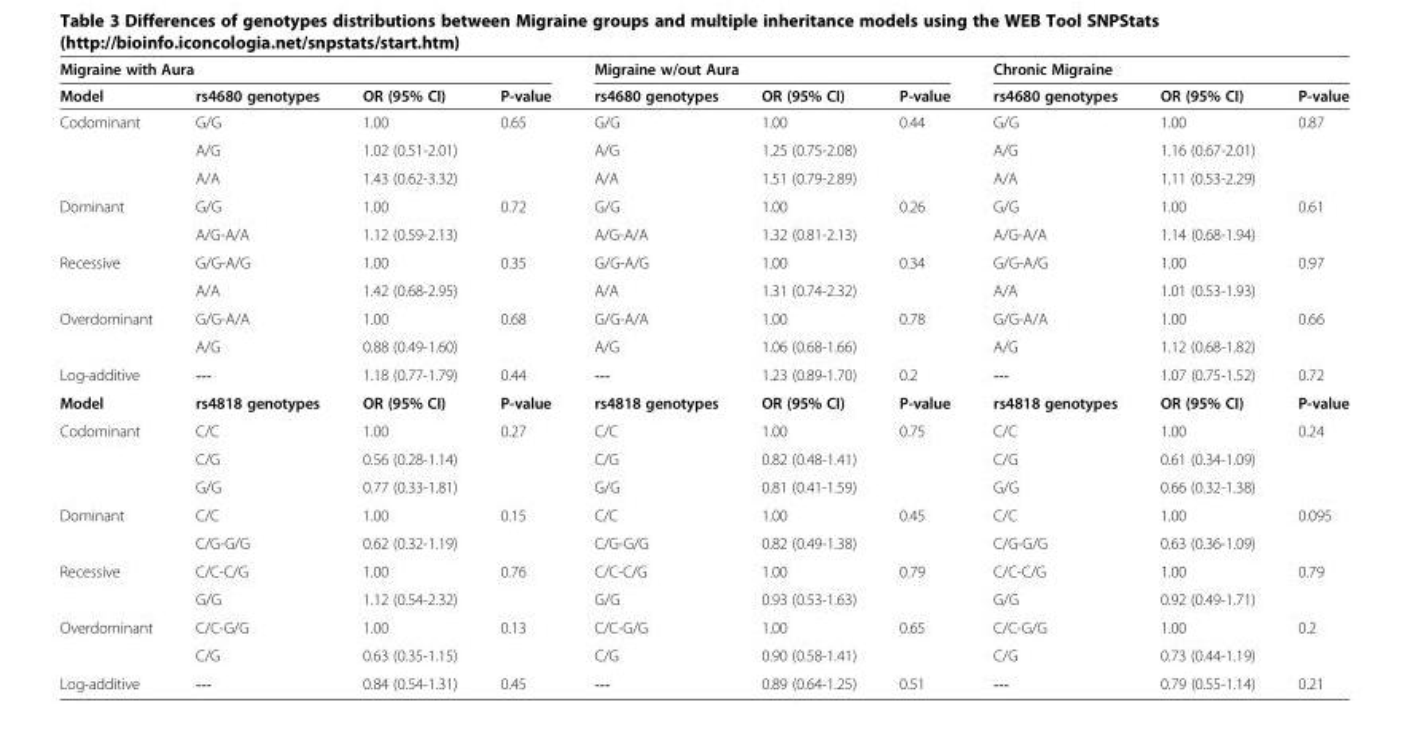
<table><thead><tr><td colspan="4">Migraine with Aura</td><td colspan="3">Migraine w/out Aura</td><td colspan="3">Chronic Migraine</td></tr><tr><td>Model</td><td>rs4680 genotypes</td><td>OR (95% CI)</td><td>P-value</td><td>rs4680 genotypes</td><td>OR (95% CI)</td><td>P-value</td><td>rs4680 genotypes</td><td>OR (95% CI)</td><td>P-value</td></tr></thead><tbody><tr><td rowspan="3">Codominant</td><td>G/G</td><td>1.00</td><td>0.65</td><td>G/G</td><td>1.00</td><td>0.44</td><td>G/G</td><td>1.00</td><td>0.87</td></tr><tr><td>A/G</td><td>1.02 (0.51-2.01)</td><td></td><td>A/G</td><td>1.25 (0.75-2.08)</td><td></td><td>A/G</td><td>1.16 (0.67-2.01)</td><td></td></tr><tr><td>A/A</td><td>1.43 (0.62-3.32)</td><td></td><td>A/A</td><td>1.51 (0.79-2.89)</td><td></td><td>A/A</td><td>1.11 (0.53-2.29)</td><td></td></tr><tr><td rowspan="2">Dominant</td><td>G/G</td><td>1.00</td><td>0.72</td><td>G/G</td><td>1.00</td><td>0.26</td><td>G/G</td><td>1.00</td><td>0.61</td></tr><tr><td>A/G-A/A</td><td>1.12 (0.59-2.13)</td><td></td><td>A/G-A/A</td><td>1.32 (0.81-2.13)</td><td></td><td>A/G-A/A</td><td>1.14 (0.68-1.94)</td><td></td></tr><tr><td rowspan="2">Recessive</td><td>G/G-A/G</td><td>1.00</td><td>0.35</td><td>G/G-A/G</td><td>1.00</td><td>0.34</td><td>G/G-A/G</td><td>1.00</td><td>0.97</td></tr><tr><td>A/A</td><td>1.42 (0.68-2.95)</td><td></td><td>A/A</td><td>1.31 (0.74-2.32)</td><td></td><td>A/A</td><td>1.01 (0.53-1.93)</td><td></td></tr><tr><td rowspan="2">Overdominant</td><td>G/G-A/A</td><td>1.00</td><td>0.68</td><td>G/G-A/A</td><td>1.00</td><td>0.78</td><td>G/G-A/A</td><td>1.00</td><td>0.66</td></tr><tr><td>A/G</td><td>0.88 (0.49-1.60)</td><td></td><td>A/G</td><td>1.06 (0.68-1.66)</td><td></td><td>A/G</td><td>1.12 (0.68-1.82)</td><td></td></tr><tr><td>Log-additive</td><td>---</td><td>1.18 (0.77-1.79)</td><td>0.44</td><td>---</td><td>1.23 (0.89-1.70)</td><td>0.2</td><td>---</td><td>1.07 (0.75-1.52)</td><td>0.72</td></tr><tr><td>Model</td><td>rs4818 genotypes</td><td>OR (95% CI)</td><td>P-value</td><td>rs4818 genotypes</td><td>OR (95% CI)</td><td>P-value</td><td>rs4818 genotypes</td><td>OR (95% CI)</td><td>P-value</td></tr><tr><td rowspan="3">Codominant</td><td>C/C</td><td>1.00</td><td>0.27</td><td>C/C</td><td>1.00</td><td>0.75</td><td>C/C</td><td>1.00</td><td>0.24</td></tr><tr><td>C/G</td><td>0.56 (0.28-1.14)</td><td></td><td>C/G</td><td>0.82 (0.48-1.41)</td><td></td><td>C/G</td><td>0.61 (0.34-1.09)</td><td></td></tr><tr><td>G/G</td><td>0.77 (0.33-1.81)</td><td></td><td>G/G</td><td>0.81 (0.41-1.59)</td><td></td><td>G/G</td><td>0.66 (0.32-1.38)</td><td></td></tr><tr><td rowspan="2">Dominant</td><td>C/C</td><td>1.00</td><td>0.15</td><td>C/C</td><td>1.00</td><td>0.45</td><td>C/C</td><td>1.00</td><td>0.095</td></tr><tr><td>C/G-G/G</td><td>0.62 (0.32-1.19)</td><td></td><td>C/G-G/G</td><td>0.82 (0.49-1.38)</td><td></td><td>C/G-G/G</td><td>0.63 (0.36-1.09)</td><td></td></tr><tr><td rowspan="2">Recessive</td><td>C/C-C/G</td><td>1.00</td><td>0.76</td><td>C/C-C/G</td><td>1.00</td><td>0.79</td><td>C/C-C/G</td><td>1.00</td><td>0.79</td></tr><tr><td>G/G</td><td>1.12 (0.54-2.32)</td><td></td><td>G/G</td><td>0.93 (0.53-1.63)</td><td></td><td>G/G</td><td>0.92 (0.49-1.71)</td><td></td></tr><tr><td rowspan="2">Overdominant</td><td>C/C-G/G</td><td>1.00</td><td>0.13</td><td>C/C-G/G</td><td>1.00</td><td>0.65</td><td>C/C-G/G</td><td>1.00</td><td>0.2</td></tr><tr><td>C/G</td><td>0.63 (0.35-1.15)</td><td></td><td>C/G</td><td>0.90 (0.58-1.41)</td><td></td><td>C/G</td><td>0.73 (0.44-1.19)</td><td></td></tr><tr><td>Log-additive</td><td>---</td><td>0.84 (0.54-1.31)</td><td>0.45</td><td>---</td><td>0.89 (0.64-1.25)</td><td>0.51</td><td>---</td><td>0.79 (0.55-1.14)</td><td>0.21</td></tr></tbody></table>